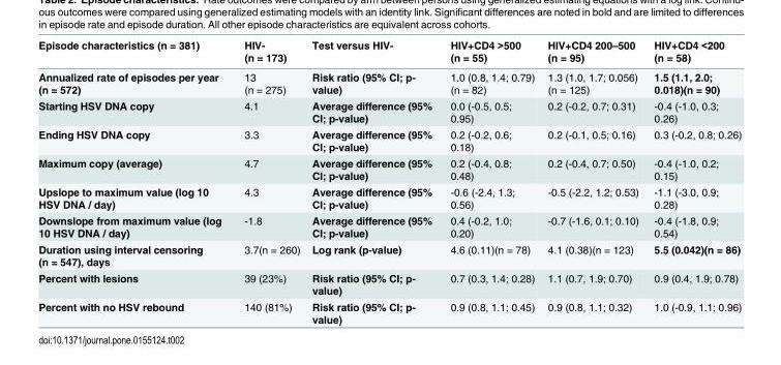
<table><thead><tr><td>Episode characteristics (n = 381)</td><td>HIV- (n = 173)</td><td>Test versus HIV-</td><td>HIV+CD4 &gt;500 (n = 55)</td><td>HIV+CD4 200–500 (n = 95)</td><td>HIV+CD4 &lt;200 (n = 58)</td></tr></thead><tbody><tr><td>Annualized rate of episodes per year (n = 572)</td><td>13 (n = 275)</td><td>Risk ratio (95% CI; p- value)</td><td>1.0 (0.8, 1.4; 0.79) (n = 82)</td><td>1.3 (1.0, 1.7; 0.056) (n = 125)</td><td>1.5 (1.1, 2.0; 0.018)(n = 90)</td></tr><tr><td>Starting HSV DNA copy</td><td>4.1</td><td>Average difference (95% CI; p-value)</td><td>0.0 (-0.5, 0.5; 0.95)</td><td>0.2 (-0.2, 0.7; 0.31)</td><td>-0.4 (-1.0, 0.3; 0.26)</td></tr><tr><td>Ending HSV DNA copy</td><td>3.3</td><td>Average difference (95% CI; p-value)</td><td>0.2 (-0.2, 0.6; 0.18)</td><td>0.2 (-0.1, 0.5; 0.16)</td><td>0.3 (-0.2, 0.8; 0.26)</td></tr><tr><td>Maximum copy (average)</td><td>4.7</td><td>Average difference (95% CI; p-value)</td><td>0.2 (-0.4, 0.8; 0.48)</td><td>0.2 (-0.4, 0.7; 0.50)</td><td>-0.4 (-1.0, 0.2; 0.15)</td></tr><tr><td>Upslope to maximum value (log 10 HSV DNA / day)</td><td>4.3</td><td>Average difference (95% CI; p-value)</td><td>-0.6 (-2.4, 1.3; 0.56)</td><td>-0.5 (-2.2, 1.2; 0.53)</td><td>-1.1 (-3.0, 0.9; 0.28)</td></tr><tr><td>Downslope from maximum value (log 10 HSV DNA / day)</td><td>-1.8</td><td>Average difference (95% CI; p-value)</td><td>0.4 (-0.2, 1.0; 0.20)</td><td>-0.7 (-1.6, 0.1; 0.10)</td><td>-0.4 (-1.8, 0.9; 0.54)</td></tr><tr><td>Duration using interval censoring (n = 547), days</td><td>3.7(n = 260)</td><td>Log rank (p-value)</td><td>4.6 (0.11)(n = 78)</td><td>4.1 (0.38)(n = 123)</td><td>5.5 (0.042)(n = 86)</td></tr><tr><td>Percent with lesions</td><td>39 (23%)</td><td>Risk ratio (95% CI; p- value)</td><td>0.7 (0.3, 1.4; 0.28)</td><td>1.1 (0.7, 1.9; 0.70)</td><td>0.9 (0.4, 1.9; 0.78)</td></tr><tr><td>Percent with no HSV rebound</td><td>140 (81%)</td><td>Risk ratio (95% CI; p- value)</td><td>0.9 (0.8, 1.1; 0.45)</td><td>0.9 (0.8, 1.1; 0.32)</td><td>1.0 (-0.9, 1.1; 0.96)</td></tr></tbody></table>